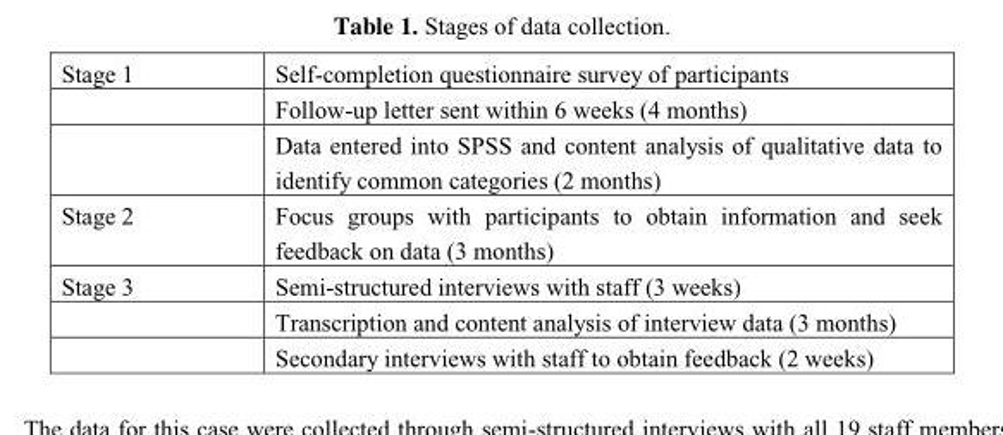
<table><tbody><tr><td rowspan="3">Stage 1</td><td>Self-completion questionnaire survey of participants</td></tr><tr><td>Follow-up letter sent within 6 weeks (4 months)</td></tr><tr><td>Data entered into SPSS and content analysis of qualitative data to identify common categories (2 months)</td></tr><tr><td>Stage 2</td><td>Focus groups with participants to obtain information and seek feedback on data (3 months)</td></tr><tr><td rowspan="3">Stage 3</td><td>Semi-structured interviews with staff (3 weeks)</td></tr><tr><td>Transcription and content analysis of interview data (3 months)</td></tr><tr><td>Secondary interviews with staff to obtain feedback (2 weeks)</td></tr></tbody></table>